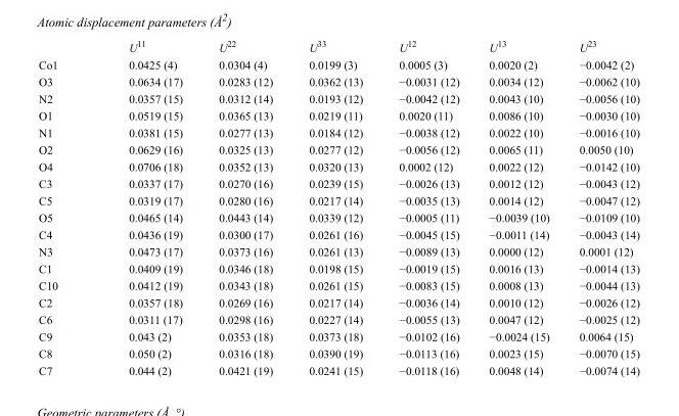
<table><thead><tr><td></td><td>U<sup>11</sup></td><td>U<sup>22</sup></td><td>U<sup>33</sup></td><td>U<sup>12</sup></td><td>U<sup>13</sup></td><td>U<sup>23</sup></td></tr></thead><tbody><tr><td>Co1</td><td>0.0425 (4)</td><td>0.0304 (4)</td><td>0.0199 (3)</td><td>0.0005 (3)</td><td>0.0020 (2)</td><td>−0.0042 (2)</td></tr><tr><td>O3</td><td>0.0634 (17)</td><td>0.0283 (12)</td><td>0.0362 (13)</td><td>−0.0031 (12)</td><td>0.0034 (12)</td><td>−0.0062 (10)</td></tr><tr><td>N2</td><td>0.0357 (15)</td><td>0.0312 (14)</td><td>0.0193 (12)</td><td>−0.0042 (12)</td><td>0.0043 (10)</td><td>−0.0056 (10)</td></tr><tr><td>O1</td><td>0.0519 (15)</td><td>0.0365 (13)</td><td>0.0219 (11)</td><td>0.0020 (11)</td><td>0.0086 (10)</td><td>−0.0030 (10)</td></tr><tr><td>N1</td><td>0.0381 (15)</td><td>0.0277 (13)</td><td>0.0184 (12)</td><td>−0.0038 (12)</td><td>0.0022 (10)</td><td>−0.0016 (10)</td></tr><tr><td>O2</td><td>0.0629 (16)</td><td>0.0325 (13)</td><td>0.0277 (12)</td><td>−0.0056 (12)</td><td>0.0065 (11)</td><td>0.0050 (10)</td></tr><tr><td>O4</td><td>0.0706 (18)</td><td>0.0352 (13)</td><td>0.0320 (13)</td><td>0.0002 (12)</td><td>0.0022 (12)</td><td>−0.0142 (10)</td></tr><tr><td>C3</td><td>0.0337 (17)</td><td>0.0270 (16)</td><td>0.0239 (15)</td><td>−0.0026 (13)</td><td>0.0012 (12)</td><td>−0.0043 (12)</td></tr><tr><td>C5</td><td>0.0319 (17)</td><td>0.0280 (16)</td><td>0.0217 (14)</td><td>−0.0035 (13)</td><td>0.0014 (12)</td><td>−0.0047 (12)</td></tr><tr><td>O5</td><td>0.0465 (14)</td><td>0.0443 (14)</td><td>0.0339 (12)</td><td>−0.0005 (11)</td><td>−0.0039 (10)</td><td>−0.0109 (10)</td></tr><tr><td>C4</td><td>0.0436 (19)</td><td>0.0300 (17)</td><td>0.0261 (16)</td><td>−0.0045 (15)</td><td>−0.0011 (14)</td><td>−0.0043 (14)</td></tr><tr><td>N3</td><td>0.0473 (17)</td><td>0.0373 (16)</td><td>0.0261 (13)</td><td>−0.0089 (13)</td><td>0.0000 (12)</td><td>0.0001 (12)</td></tr><tr><td>C1</td><td>0.0409 (19)</td><td>0.0346 (18)</td><td>0.0198 (15)</td><td>−0.0019 (15)</td><td>0.0016 (13)</td><td>−0.0014 (13)</td></tr><tr><td>C10</td><td>0.0412 (19)</td><td>0.0343 (18)</td><td>0.0261 (15)</td><td>−0.0083 (15)</td><td>0.0008 (13)</td><td>−0.0044 (13)</td></tr><tr><td>C2</td><td>0.0357 (18)</td><td>0.0269 (16)</td><td>0.0217 (14)</td><td>−0.0036 (14)</td><td>0.0010 (12)</td><td>−0.0026 (12)</td></tr><tr><td>C6</td><td>0.0311 (17)</td><td>0.0298 (16)</td><td>0.0227 (14)</td><td>−0.0055 (13)</td><td>0.0047 (12)</td><td>−0.0025 (12)</td></tr><tr><td>C9</td><td>0.043 (2)</td><td>0.0353 (18)</td><td>0.0373 (18)</td><td>−0.0102 (16)</td><td>−0.0024 (15)</td><td>0.0064 (15)</td></tr><tr><td>C8</td><td>0.050 (2)</td><td>0.0316 (18)</td><td>0.0390 (19)</td><td>−0.0113 (16)</td><td>0.0023 (15)</td><td>−0.0070 (15)</td></tr><tr><td>C7</td><td>0.044 (2)</td><td>0.0421 (19)</td><td>0.0241 (15)</td><td>−0.0118 (16)</td><td>0.0048 (14)</td><td>−0.0074 (14)</td></tr></tbody></table>